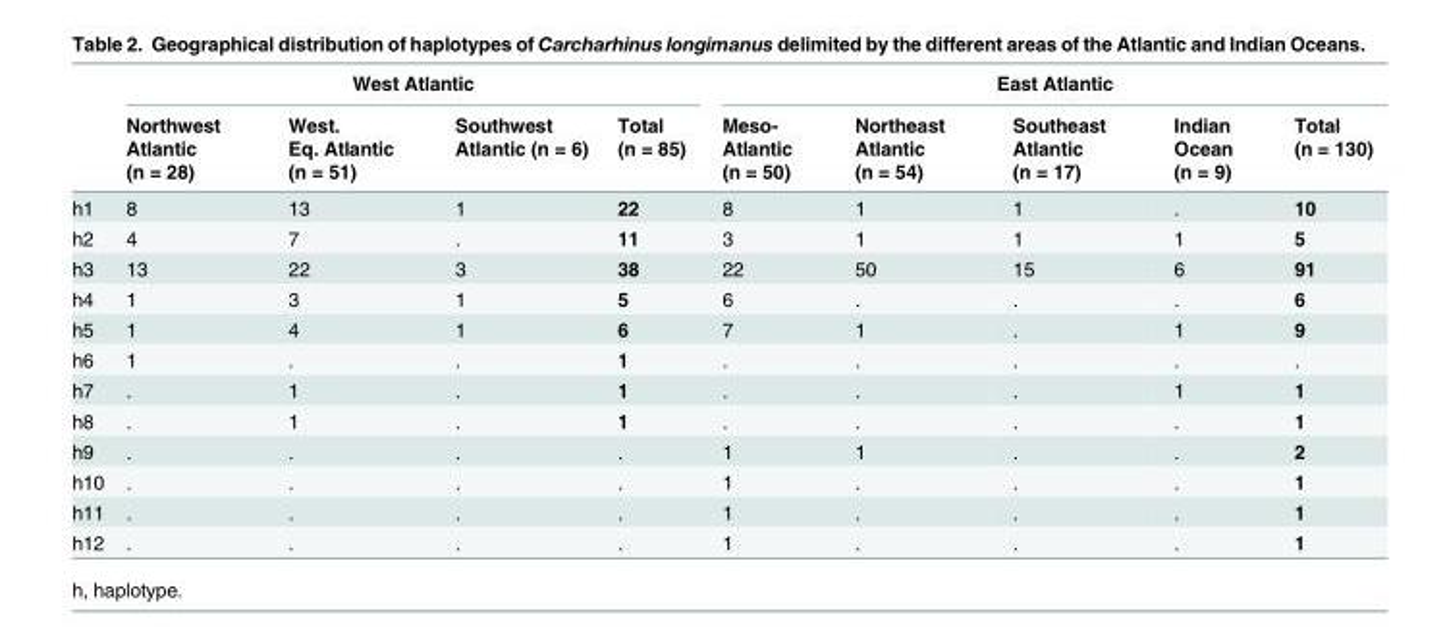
<table><thead><tr><td rowspan="2"></td><td colspan="4">West Atlantic</td><td colspan="5">East Atlantic</td></tr><tr><td>Northwest Atlantic (n = 28)</td><td>West. Eq. Atlantic (n = 51)</td><td>Southwest Atlantic (n = 6)</td><td>Total (n = 85)</td><td>Meso- Atlantic (n = 50)</td><td>Northeast Atlantic (n = 54)</td><td>Southeast Atlantic (n = 17)</td><td>Indian Ocean (n = 9)</td><td>Total (n = 130)</td></tr></thead><tbody><tr><td>h1</td><td>8</td><td>13</td><td>1</td><td>22</td><td>8</td><td>1</td><td>1</td><td>.</td><td>10</td></tr><tr><td>h2</td><td>4</td><td>7</td><td>.</td><td>11</td><td>3</td><td>1</td><td>1</td><td>1</td><td>5</td></tr><tr><td>h3</td><td>13</td><td>22</td><td>3</td><td>38</td><td>22</td><td>50</td><td>15</td><td>6</td><td>91</td></tr><tr><td>h4</td><td>1</td><td>3</td><td>1</td><td>5</td><td>6</td><td>.</td><td>.</td><td>.</td><td>6</td></tr><tr><td>h5</td><td>1</td><td>4</td><td>1</td><td>6</td><td>7</td><td>1</td><td>.</td><td>1</td><td>9</td></tr><tr><td>h6</td><td>1</td><td>.</td><td>.</td><td>1</td><td>.</td><td>.</td><td>.</td><td>.</td><td>.</td></tr><tr><td>h7</td><td>.</td><td>1</td><td>.</td><td>1</td><td>.</td><td>.</td><td>.</td><td>1</td><td>1</td></tr><tr><td>h8</td><td>.</td><td>1</td><td>.</td><td>1</td><td>.</td><td>.</td><td>.</td><td>.</td><td>1</td></tr><tr><td>h9</td><td>.</td><td>.</td><td>.</td><td>.</td><td>1</td><td>1</td><td>.</td><td>.</td><td>2</td></tr><tr><td>h10</td><td>.</td><td>.</td><td>.</td><td>.</td><td>1</td><td>.</td><td>.</td><td>.</td><td>1</td></tr><tr><td>h11</td><td>.</td><td>.</td><td>.</td><td>.</td><td>1</td><td>.</td><td>.</td><td>.</td><td>1</td></tr><tr><td>h12</td><td>.</td><td>.</td><td>.</td><td>.</td><td>1</td><td>.</td><td>.</td><td>.</td><td>1</td></tr></tbody></table>